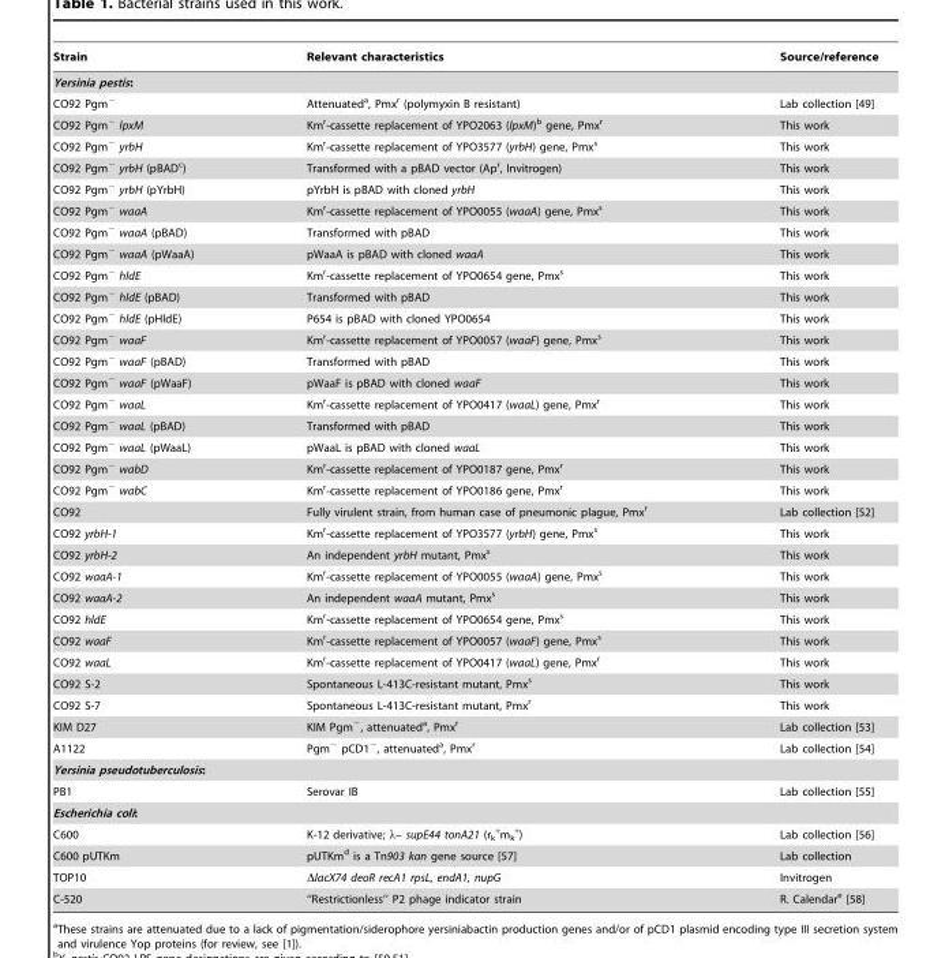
<table><thead><tr><td>Strain</td><td>Relevant characteristics</td><td>Source/reference</td></tr></thead><tbody><tr><td colspan="3">Yersinia pestis:</td></tr><tr><td>CO92 Pgm<sup>−</sup></td><td>Attenuated<sup>a</sup>, Pmx<sup>r</sup> (polymyxin B resistant)</td><td>Lab collection [49]</td></tr><tr><td>CO92 Pgm<sup>−</sup> lpxM</td><td>Km<sup>r</sup>-cassette replacement of YPO2063 (lpxM)<sup>b</sup> gene, Pmx<sup>r</sup></td><td>This work</td></tr><tr><td>CO92 Pgm<sup>−</sup> yrbH</td><td>Km<sup>r</sup>-cassette replacement of YPO3577 (yrbH) gene, Pmx<sup>s</sup></td><td>This work</td></tr><tr><td>CO92 Pgm<sup>−</sup> yrbH (pBAD<sup>c</sup>)</td><td>Transformed with a pBAD vector (Ap<sup>r</sup>, Invitrogen)</td><td>This work</td></tr><tr><td>CO92 Pgm<sup>−</sup> yrbH (pYrbH)</td><td>pYrbH is pBAD with cloned yrbH</td><td>This work</td></tr><tr><td>CO92 Pgm<sup>−</sup> waaA</td><td>Km<sup>r</sup>-cassette replacement of YPO0055 (waaA) gene, Pmx<sup>s</sup></td><td>This work</td></tr><tr><td>CO92 Pgm<sup>−</sup> waaA (pBAD)</td><td>Transformed with pBAD</td><td>This work</td></tr><tr><td>CO92 Pgm<sup>−</sup> waaA (pWaaA)</td><td>pWaaA is pBAD with cloned waaA</td><td>This work</td></tr><tr><td>CO92 Pgm<sup>−</sup> hldE</td><td>Km<sup>r</sup>-cassette replacement of YPO0654 gene, Pmx<sup>s</sup></td><td>This work</td></tr><tr><td>CO92 Pgm<sup>−</sup> hldE (pBAD)</td><td>Transformed with pBAD</td><td>This work</td></tr><tr><td>CO92 Pgm<sup>−</sup> hldE (pHldE)</td><td>P654 is pBAD with cloned YPO0654</td><td>This work</td></tr><tr><td>CO92 Pgm<sup>−</sup> waaF</td><td>Km<sup>r</sup>-cassette replacement of YPO0057 (waaF) gene, Pmx<sup>s</sup></td><td>This work</td></tr><tr><td>CO92 Pgm<sup>−</sup> waaF (pBAD)</td><td>Transformed with pBAD</td><td>This work</td></tr><tr><td>CO92 Pgm<sup>−</sup> waaF (pWaaF)</td><td>pWaaF is pBAD with cloned waaF</td><td>This work</td></tr><tr><td>CO92 Pgm<sup>−</sup> waaL</td><td>Km<sup>r</sup>-cassette replacement of YPO0417 (waaL) gene, Pmx<sup>r</sup></td><td>This work</td></tr><tr><td>CO92 Pgm<sup>−</sup> waaL (pBAD)</td><td>Transformed with pBAD</td><td>This work</td></tr><tr><td>CO92 Pgm<sup>−</sup> waaL (pWaaL)</td><td>pWaaL is pBAD with cloned waaL</td><td>This work</td></tr><tr><td>CO92 Pgm<sup>−</sup> wabD</td><td>Km<sup>r</sup>-cassette replacement of YPO0187 gene, Pmx<sup>r</sup></td><td>This work</td></tr><tr><td>CO92 Pgm<sup>−</sup> wabC</td><td>Km<sup>r</sup>-cassette replacement of YPO0186 gene, Pmx<sup>r</sup></td><td>This work</td></tr><tr><td>CO92</td><td>Fully virulent strain, from human case of pneumonic plague, Pmx<sup>r</sup></td><td>Lab collection [52]</td></tr><tr><td>CO92 yrbH-1</td><td>Km<sup>r</sup>-cassette replacement of YPO3577 (yrbH) gene, Pmx<sup>s</sup></td><td>This work</td></tr><tr><td>CO92 yrbH-2</td><td>An independent yrbH mutant, Pmx<sup>s</sup></td><td>This work</td></tr><tr><td>CO92 waaA-1</td><td>Km<sup>r</sup>-cassette replacement of YPO0055 (waaA) gene, Pmx<sup>s</sup></td><td>This work</td></tr><tr><td>CO92 waaA-2</td><td>An independent waaA mutant, Pmx<sup>s</sup></td><td>This work</td></tr><tr><td>CO92 hldE</td><td>Km<sup>r</sup>-cassette replacement of YPO0654 gene, Pmx<sup>s</sup></td><td>This work</td></tr><tr><td>CO92 waaF</td><td>Km<sup>r</sup>-cassette replacement of YPO0057 (waaF) gene, Pmx<sup>s</sup></td><td>This work</td></tr><tr><td>CO92 waaL</td><td>Km<sup>r</sup>-cassette replacement of YPO0417 (waaL) gene, Pmx<sup>r</sup></td><td>This work</td></tr><tr><td>CO92 S-2</td><td>Spontaneous L-413C-resistant mutant, Pmx<sup>s</sup></td><td>This work</td></tr><tr><td>CO92 S-7</td><td>Spontaneous L-413C-resistant mutant, Pmx<sup>r</sup></td><td>This work</td></tr><tr><td>KIM D27</td><td>KIM Pgm<sup>−</sup>, attenuated<sup>a</sup>, Pmx<sup>r</sup></td><td>Lab collection [53]</td></tr><tr><td>A1122</td><td>Pgm<sup>−</sup> pCD1<sup>−</sup>, attenuated<sup>a</sup>, Pmx<sup>r</sup></td><td>Lab collection [54]</td></tr><tr><td colspan="3">Yersinia pseudotuberculosis:</td></tr><tr><td>PB1</td><td>Serovar IB</td><td>Lab collection [55]</td></tr><tr><td colspan="3">Escherichia coli:</td></tr><tr><td>C600</td><td>K-12 derivative; λ– supE44 tonA21 (r<sub>k</sub> <sup>+</sup>m<sub>k</sub> <sup>+</sup>)</td><td>Lab collection [56]</td></tr><tr><td>C600 pUTKm</td><td>pUTKm<sup>d</sup> is a Tn903 kan gene source [57]</td><td>Lab collection</td></tr><tr><td>TOP10</td><td>ΔlacX74 deoR recA1 rpsL, endA1, nupG</td><td>Invitrogen</td></tr><tr><td>C-520</td><td>‘‘Restrictionless’’ P2 phage indicator strain</td><td>R. Calendar<sup>e</sup> [58]</td></tr></tbody></table>